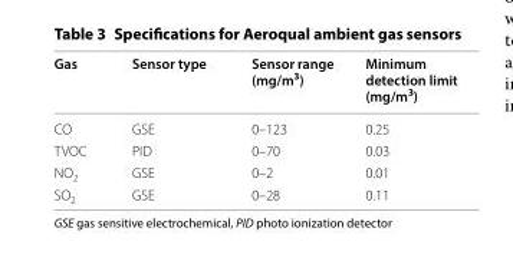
<table><thead><tr><td>Gas</td><td>Sensor type</td><td>Sensor range (mg/m<sup>3</sup>)</td><td>Minimum detection limit (mg/m<sup>3</sup>)</td></tr></thead><tbody><tr><td>CO</td><td>GSE</td><td>0–123</td><td>0.25</td></tr><tr><td>TVOC</td><td>PID</td><td>0–70</td><td>0.03</td></tr><tr><td>NO<sub>2</sub></td><td>GSE</td><td>0–2</td><td>0.01</td></tr><tr><td>SO<sub>2</sub></td><td>GSE</td><td>0–28</td><td>0.11</td></tr></tbody></table>